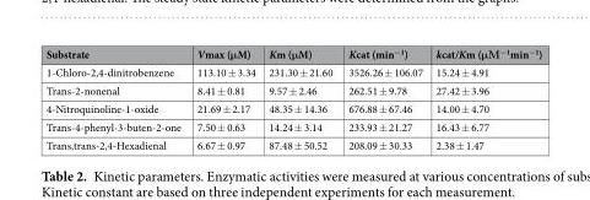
<table><thead><tr><td>Substrate</td><td>Vmax (μM)</td><td>Km (μM)</td><td>Kcat (min<sup>−1</sup>)</td><td>kcat/Km (μΜ<sup>−1</sup>min<sup>−1</sup>)</td></tr></thead><tbody><tr><td>1-Chloro-2,4-dinitrobenzene</td><td>113.10 ± 3.34</td><td>231.30 ± 21.60</td><td>3526.26 ± 106.07</td><td>15.24 ± 4.91</td></tr><tr><td>Trans-2-nonenal</td><td>8.41 ± 0.81</td><td>9.57 ± 2.46</td><td>262.51 ± 9.78</td><td>27.42 ± 3.96</td></tr><tr><td>4-Nitroquinoline-1-oxide</td><td>21.69 ± 2.17</td><td>48.35 ± 14.36</td><td>676.88 ± 67.46</td><td>14.00 ± 4.70</td></tr><tr><td>Trans-4-phenyl-3-buten-2-one</td><td>7.50 ± 0.63</td><td>14.24 ± 3.14</td><td>233.93 ± 21.27</td><td>16.43 ± 6.77</td></tr><tr><td>Trans,trans-2,4-Hexadienal</td><td>6.67 ± 0.97</td><td>87.48 ± 50.52</td><td>208.09 ± 30.33</td><td>2.38 ± 1.47</td></tr></tbody></table>